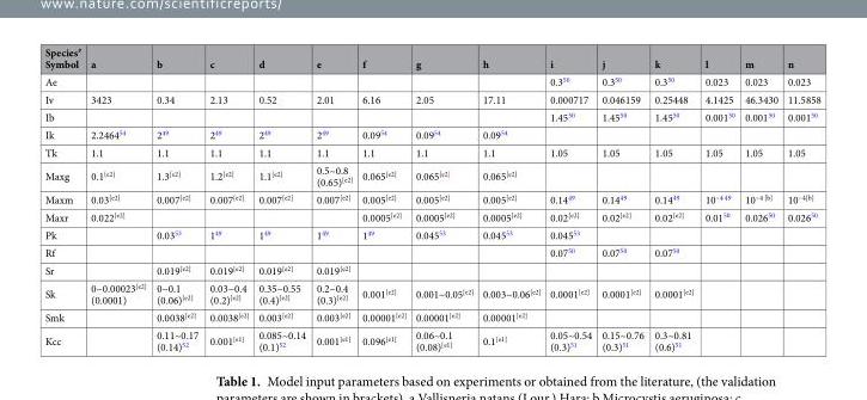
<table><thead><tr><td>Species<sup>#</sup> Symbol</td><td>a</td><td>b</td><td>c</td><td>d</td><td>e</td><td>f</td><td>g</td><td>h</td><td>i</td><td>j</td><td>k</td><td>l</td><td>m</td><td>n</td></tr></thead><tbody><tr><td>Ae</td><td></td><td></td><td></td><td></td><td></td><td></td><td></td><td></td><td>0.3<sup>50</sup></td><td>0.3<sup>50</sup></td><td>0.3<sup>50</sup></td><td>0.023</td><td>0.023</td><td>0.023</td></tr><tr><td>Iv</td><td>3423</td><td>0.34</td><td>2.13</td><td>0.52</td><td>2.01</td><td>6.16</td><td>2.05</td><td>17.11</td><td>0.000717</td><td>0.046159</td><td>0.25448</td><td>4.1425</td><td>46.3430</td><td>11.5858</td></tr><tr><td>Ib</td><td></td><td></td><td></td><td></td><td></td><td></td><td></td><td></td><td>1.45<sup>50</sup></td><td>1.45<sup>50</sup></td><td>1.45<sup>50</sup></td><td>0.001<sup>50</sup></td><td>0.001<sup>50</sup></td><td>0.001<sup>50</sup></td></tr><tr><td>Ik</td><td>2.2464<sup>54</sup></td><td>2<sup>49</sup></td><td>2<sup>49</sup></td><td>2<sup>49</sup></td><td>2<sup>49</sup></td><td>0.09<sup>54</sup></td><td>0.09<sup>54</sup></td><td>0.09<sup>54</sup></td><td></td><td></td><td></td><td></td><td></td><td></td></tr><tr><td>Tk</td><td>1.1</td><td>1.1</td><td>1.1</td><td>1.1</td><td>1.1</td><td>1.1</td><td>1.1</td><td>1.1</td><td>1.05</td><td>1.05</td><td>1.05</td><td>1.05</td><td>1.05</td><td>1.05</td></tr><tr><td>Maxg</td><td>0.1<sup>[e2]</sup></td><td>1.3<sup>[e2]</sup></td><td>1.2<sup>[e2]</sup></td><td>1.1<sup>[e2]</sup></td><td>0.5~0.8 (0.65)<sup>[e2]</sup></td><td>0.065<sup>[e2]</sup></td><td>0.065<sup>[e2]</sup></td><td>0.065<sup>[e2]</sup></td><td></td><td></td><td></td><td></td><td></td><td></td></tr><tr><td>Maxm</td><td>0.03<sup>[e2]</sup></td><td>0.007<sup>[e2]</sup></td><td>0.007<sup>[e2]</sup></td><td>0.007<sup>[e2]</sup></td><td>0.007<sup>[e2]</sup></td><td>0.005<sup>[e2]</sup></td><td>0.005<sup>[e2]</sup></td><td>0.005<sup>[e2]</sup></td><td>0.14<sup>49</sup></td><td>0.14<sup>49</sup></td><td>0.14<sup>49</sup></td><td>10<sup>−4 49</sup></td><td>10<sup>−4 [b]</sup></td><td>10<sup>−4[b]</sup></td></tr><tr><td>Maxr</td><td>0.022<sup>[e2]</sup></td><td></td><td></td><td></td><td></td><td>0.0005<sup>[e2]</sup></td><td>0.0005<sup>[e2]</sup></td><td>0.0005<sup>[e2]</sup></td><td>0.02<sup>[e2]</sup></td><td>0.02<sup>[e2]</sup></td><td>0.02<sup>[e2]</sup></td><td>0.01<sup>50</sup></td><td>0.026<sup>50</sup></td><td>0.026<sup>50</sup></td></tr><tr><td>Pk</td><td></td><td>0.03<sup>53</sup></td><td>1<sup>49</sup></td><td>1<sup>49</sup></td><td>1<sup>49</sup></td><td>1<sup>49</sup></td><td>0.045<sup>53</sup></td><td>0.045<sup>53</sup></td><td>0.045<sup>53</sup></td><td></td><td></td><td></td><td></td><td></td></tr><tr><td>Rf</td><td></td><td></td><td></td><td></td><td></td><td></td><td></td><td></td><td>0.07<sup>50</sup></td><td>0.07<sup>50</sup></td><td>0.07<sup>50</sup></td><td></td><td></td><td></td></tr><tr><td>Sr</td><td></td><td>0.019<sup>[e2]</sup></td><td>0.019<sup>[e2]</sup></td><td>0.019<sup>[e2]</sup></td><td>0.019<sup>[e2]</sup></td><td></td><td></td><td></td><td></td><td></td><td></td><td></td><td></td><td></td></tr><tr><td>Sk</td><td>0~0.00023<sup>[e2]</sup> (0.0001)</td><td>0~0.1 (0.06)<sup>[e2]</sup></td><td>0.03~0.4 (0.2)<sup>[e2]</sup></td><td>0.35~0.55 (0.4)<sup>[e2]</sup></td><td>0.2~0.4 (0.3)<sup>[e2]</sup></td><td>0.001<sup>[e2]</sup></td><td>0.001~0.05<sup>[e2]</sup></td><td>0.003~0.06<sup>[e2]</sup></td><td>0.0001<sup>[e2]</sup></td><td>0.0001<sup>[e2]</sup></td><td>0.0001<sup>[e2]</sup></td><td></td><td></td><td></td></tr><tr><td>Smk</td><td></td><td>0.0038<sup>[e2]</sup></td><td>0.0038<sup>[e2]</sup></td><td>0.003<sup>[e2]</sup></td><td>0.003<sup>[e2]</sup></td><td>0.00001<sup>[e2]</sup></td><td>0.00001<sup>[e2]</sup></td><td>0.00001<sup>[e2]</sup></td><td></td><td></td><td></td><td></td><td></td><td></td></tr><tr><td>Kcc</td><td></td><td>0.11~0.17 (0.14)<sup>52</sup></td><td>0.001<sup>[e1]</sup></td><td>0.085~0.14 (0.1)<sup>52</sup></td><td>0.001<sup>[e1]</sup></td><td>0.096<sup>[e1]</sup></td><td>0.06~0.1 (0.08)<sup>[e1]</sup></td><td>0.1<sup>[e1]</sup></td><td>0.05~0.54 (0.3)<sup>51</sup></td><td>0.15~0.76 (0.3)<sup>51</sup></td><td>0.3~0.81 (0.6)<sup>51</sup></td><td></td><td></td><td></td></tr></tbody></table>